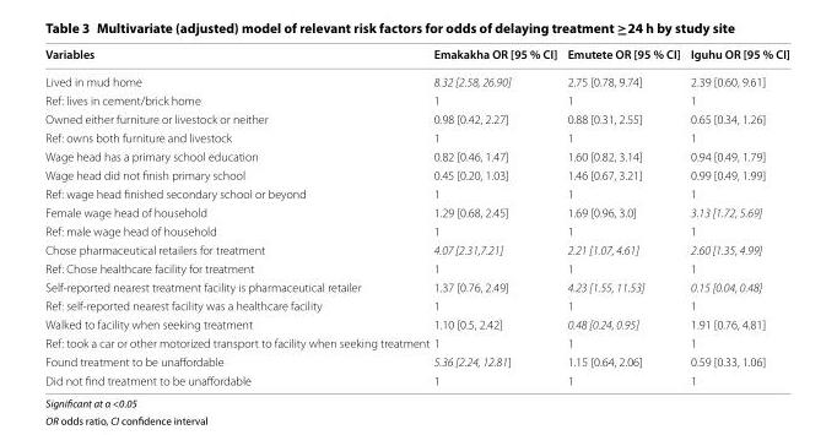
<table><thead><tr><td>Variables</td><td>Emakakha OR [95 % CI]</td><td>Emutete OR [95 % CI]</td><td>Iguhu OR [95 % CI]</td></tr></thead><tbody><tr><td>Lived in mud home</td><td>8.32 [2.58, 26.90]</td><td>2.75 [0.78, 9.74]</td><td>2.39 [0.60, 9.61]</td></tr><tr><td>Ref: lives in cement/brick home</td><td>1</td><td>1</td><td>1</td></tr><tr><td>Owned either furniture or livestock or neither</td><td>0.98 [0.42, 2.27]</td><td>0.88 [0.31, 2.55]</td><td>0.65 [0.34, 1.26]</td></tr><tr><td>Ref: owns both furniture and livestock</td><td>1</td><td>1</td><td>1</td></tr><tr><td>Wage head has a primary school education</td><td>0.82 [0.46, 1.47]</td><td>1.60 [0.82, 3.14]</td><td>0.94 [0.49, 1.79]</td></tr><tr><td>Wage head did not finish primary school</td><td>0.45 [0.20, 1.03]</td><td>1.46 [0.67, 3.21]</td><td>0.99 [0.49, 1.99]</td></tr><tr><td>Ref: wage head finished secondary school or beyond</td><td>1</td><td>1</td><td>1</td></tr><tr><td>Female wage head of household</td><td>1.29 [0.68, 2.45]</td><td>1.69 [0.96, 3.0]</td><td>3.13 [1.72, 5.69]</td></tr><tr><td>Ref: male wage head of household</td><td>1</td><td>1</td><td>1</td></tr><tr><td>Chose pharmaceutical retailers for treatment</td><td>4.07 [2.31,7.21]</td><td>2.21 [1.07, 4.61]</td><td>2.60 [1.35, 4.99]</td></tr><tr><td>Ref: Chose healthcare facility for treatment</td><td>1</td><td>1</td><td>1</td></tr><tr><td>Self‑reported nearest treatment facility is pharmaceutical retailer</td><td>1.37 [0.76, 2.49]</td><td>4.23 [1.55, 11.53]</td><td>0.15 [0.04, 0.48]</td></tr><tr><td>Ref: self‑reported nearest facility was a healthcare facility</td><td>1</td><td>1</td><td>1</td></tr><tr><td>Walked to facility when seeking treatment</td><td>1.10 [0.5, 2.42]</td><td>0.48 [0.24, 0.95]</td><td>1.91 [0.76, 4.81]</td></tr><tr><td>Ref: took a car or other motorized transport to facility when seeking treatment</td><td>1</td><td>1</td><td>1</td></tr><tr><td>Found treatment to be unaffordable</td><td>5.36 [2.24, 12.81]</td><td>1.15 [0.64, 2.06]</td><td>0.59 [0.33, 1.06]</td></tr><tr><td>Did not find treatment to be unaffordable</td><td>1</td><td>1</td><td>1</td></tr></tbody></table>